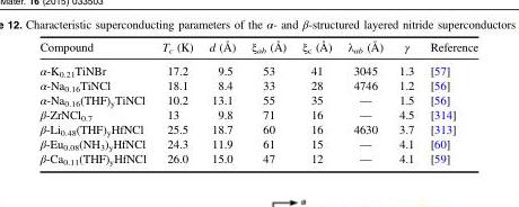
<table><thead><tr><td>Compound</td><td>T<sub>c</sub> (K)</td><td>d (Å)</td><td>ξ<sub>ab</sub> (Å)</td><td>ξ<sub>c</sub> (Å)</td><td>λ<sub>ab</sub> (Å)</td><td>γ</td><td>Reference</td></tr></thead><tbody><tr><td>α-K<sub>0.21</sub>TiNBr</td><td>17.2</td><td>9.5</td><td>53</td><td>41</td><td>3045</td><td>1.3</td><td>[57]</td></tr><tr><td>α-Na<sub>0.16</sub>TiNCl</td><td>18.1</td><td>8.4</td><td>33</td><td>28</td><td>4746</td><td>1.2</td><td>[56]</td></tr><tr><td>α-Na<sub>0.16</sub>(THF)<sub>y</sub>TiNCl</td><td>10.2</td><td>13.1</td><td>55</td><td>35</td><td>—</td><td>1.5</td><td>[56]</td></tr><tr><td>β-ZrNCl<sub>0.7</sub></td><td>13</td><td>9.8</td><td>71</td><td>16</td><td>—</td><td>4.5</td><td>[314]</td></tr><tr><td>β-Li<sub>0.48</sub>(THF)<sub>y</sub>HfNCl</td><td>25.5</td><td>18.7</td><td>60</td><td>16</td><td>4630</td><td>3.7</td><td>[313]</td></tr><tr><td>β-Eu<sub>0.08</sub>(NH<sub>3</sub>)<sub>y</sub>HfNCl</td><td>24.3</td><td>11.9</td><td>61</td><td>15</td><td>—</td><td>4.1</td><td>[60]</td></tr><tr><td>β-Ca<sub>0.11</sub>(THF)<sub>y</sub>HfNCl</td><td>26.0</td><td>15.0</td><td>47</td><td>12</td><td>—</td><td>4.1</td><td>[59]</td></tr></tbody></table>